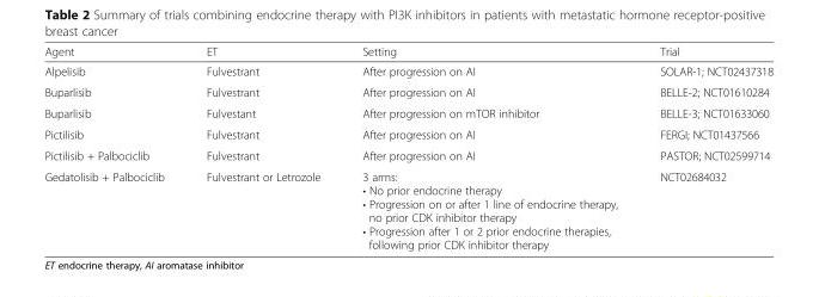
<table><thead><tr><td>Agent</td><td>ET</td><td>Setting</td><td>Trial</td></tr></thead><tbody><tr><td>Alpelisib</td><td>Fulvestrant</td><td>After progression on AI</td><td>SOLAR-1; NCT02437318</td></tr><tr><td>Buparlisib</td><td>Fulvestrant</td><td>After progression on AI</td><td>BELLE-2; NCT01610284</td></tr><tr><td>Buparlisib</td><td>Fulvestant</td><td>After progression on mTOR inhibitor</td><td>BELLE-3; NCT01633060</td></tr><tr><td>Pictilisib</td><td>Fulvestrant</td><td>After progression on AI</td><td>FERGI; NCT01437566</td></tr><tr><td>Pictilisib + Palbociclib</td><td>Fulvestrant</td><td>After progression on AI</td><td>PASTOR; NCT02599714</td></tr><tr><td>Gedatolisib + Palbociclib</td><td>Fulvestrant or Letrozole</td><td>3 arms: • No prior endocrine therapy • Progression on or after 1 line of endocrine therapy, no prior CDK inhibitor therapy • Progression after 1 or 2 prior endocrine therapies, following prior CDK inhibitor therapy</td><td>NCT02684032</td></tr></tbody></table>